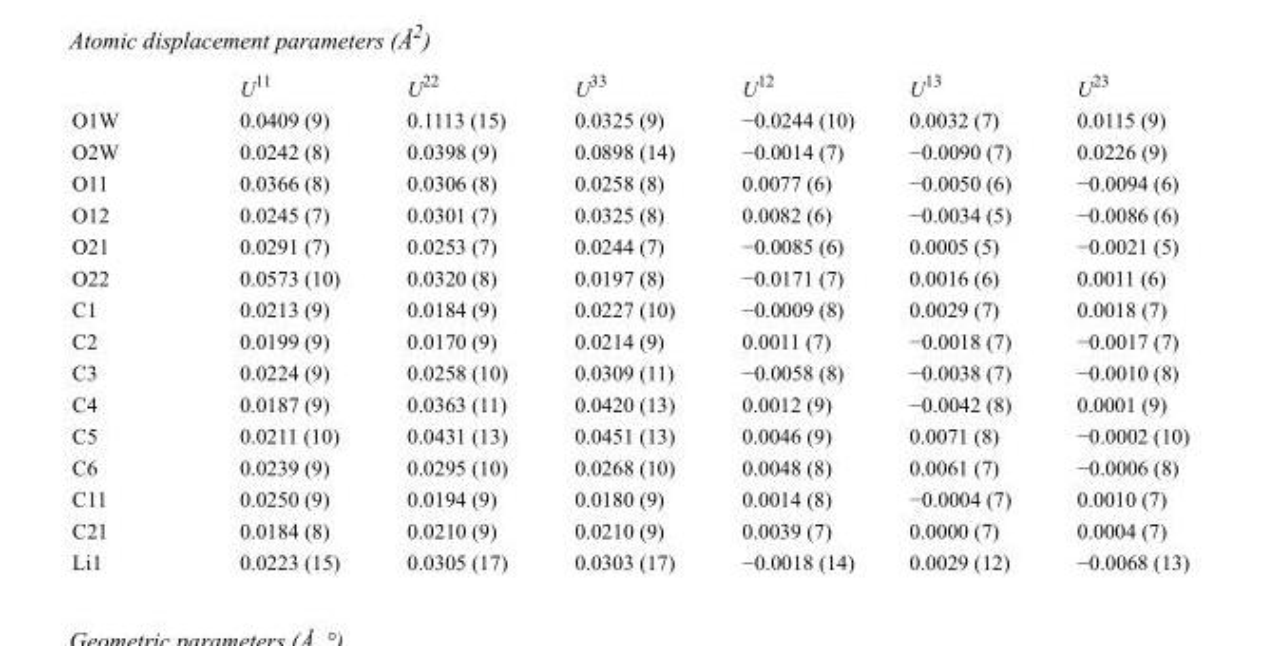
<table><thead><tr><td></td><td>U<sup>11</sup></td><td>U<sup>22</sup></td><td>U<sup>33</sup></td><td>U<sup>12</sup></td><td>U<sup>13</sup></td><td>U<sup>23</sup></td></tr></thead><tbody><tr><td>O1W</td><td>0.0409 (9)</td><td>0.1113 (15)</td><td>0.0325 (9)</td><td>−0.0244 (10)</td><td>0.0032 (7)</td><td>0.0115 (9)</td></tr><tr><td>O2W</td><td>0.0242 (8)</td><td>0.0398 (9)</td><td>0.0898 (14)</td><td>−0.0014 (7)</td><td>−0.0090 (7)</td><td>0.0226 (9)</td></tr><tr><td>O11</td><td>0.0366 (8)</td><td>0.0306 (8)</td><td>0.0258 (8)</td><td>0.0077 (6)</td><td>−0.0050 (6)</td><td>−0.0094 (6)</td></tr><tr><td>O12</td><td>0.0245 (7)</td><td>0.0301 (7)</td><td>0.0325 (8)</td><td>0.0082 (6)</td><td>−0.0034 (5)</td><td>−0.0086 (6)</td></tr><tr><td>O21</td><td>0.0291 (7)</td><td>0.0253 (7)</td><td>0.0244 (7)</td><td>−0.0085 (6)</td><td>0.0005 (5)</td><td>−0.0021 (5)</td></tr><tr><td>O22</td><td>0.0573 (10)</td><td>0.0320 (8)</td><td>0.0197 (8)</td><td>−0.0171 (7)</td><td>0.0016 (6)</td><td>0.0011 (6)</td></tr><tr><td>C1</td><td>0.0213 (9)</td><td>0.0184 (9)</td><td>0.0227 (10)</td><td>−0.0009 (8)</td><td>0.0029 (7)</td><td>0.0018 (7)</td></tr><tr><td>C2</td><td>0.0199 (9)</td><td>0.0170 (9)</td><td>0.0214 (9)</td><td>0.0011 (7)</td><td>−0.0018 (7)</td><td>−0.0017 (7)</td></tr><tr><td>C3</td><td>0.0224 (9)</td><td>0.0258 (10)</td><td>0.0309 (11)</td><td>−0.0058 (8)</td><td>−0.0038 (7)</td><td>−0.0010 (8)</td></tr><tr><td>C4</td><td>0.0187 (9)</td><td>0.0363 (11)</td><td>0.0420 (13)</td><td>0.0012 (9)</td><td>−0.0042 (8)</td><td>0.0001 (9)</td></tr><tr><td>C5</td><td>0.0211 (10)</td><td>0.0431 (13)</td><td>0.0451 (13)</td><td>0.0046 (9)</td><td>0.0071 (8)</td><td>−0.0002 (10)</td></tr><tr><td>C6</td><td>0.0239 (9)</td><td>0.0295 (10)</td><td>0.0268 (10)</td><td>0.0048 (8)</td><td>0.0061 (7)</td><td>−0.0006 (8)</td></tr><tr><td>C11</td><td>0.0250 (9)</td><td>0.0194 (9)</td><td>0.0180 (9)</td><td>0.0014 (8)</td><td>−0.0004 (7)</td><td>0.0010 (7)</td></tr><tr><td>C21</td><td>0.0184 (8)</td><td>0.0210 (9)</td><td>0.0210 (9)</td><td>0.0039 (7)</td><td>0.0000 (7)</td><td>0.0004 (7)</td></tr><tr><td>Li1</td><td>0.0223 (15)</td><td>0.0305 (17)</td><td>0.0303 (17)</td><td>−0.0018 (14)</td><td>0.0029 (12)</td><td>−0.0068 (13)</td></tr></tbody></table>